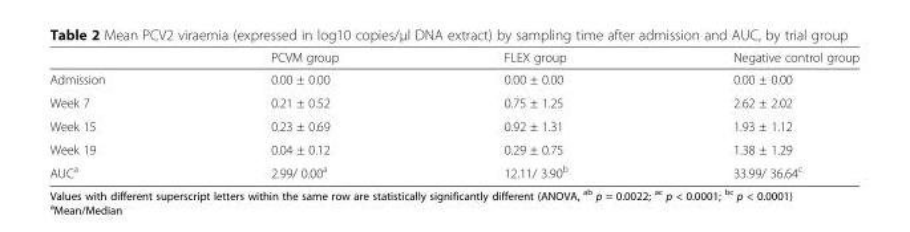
<table><thead><tr><td></td><td>PCVM group</td><td>FLEX group</td><td>Negative control group</td></tr></thead><tbody><tr><td>Admission</td><td>0.00 ± 0.00</td><td>0.00 ± 0.00</td><td>0.00 ± 0.00</td></tr><tr><td>Week 7</td><td>0.21 ± 0.52</td><td>0.75 ± 1.25</td><td>2.62 ± 2.02</td></tr><tr><td>Week 15</td><td>0.23 ± 0.69</td><td>0.92 ± 1.31</td><td>1.93 ± 1.12</td></tr><tr><td>Week 19</td><td>0.04 ± 0.12</td><td>0.29 ± 0.75</td><td>1.38 ± 1.29</td></tr><tr><td>AUC<sup>a</sup></td><td>2.99/ 0.00<sup>a</sup></td><td>12.11/ 3.90<sup>b</sup></td><td>33.99/ 36.64<sup>c</sup></td></tr></tbody></table>